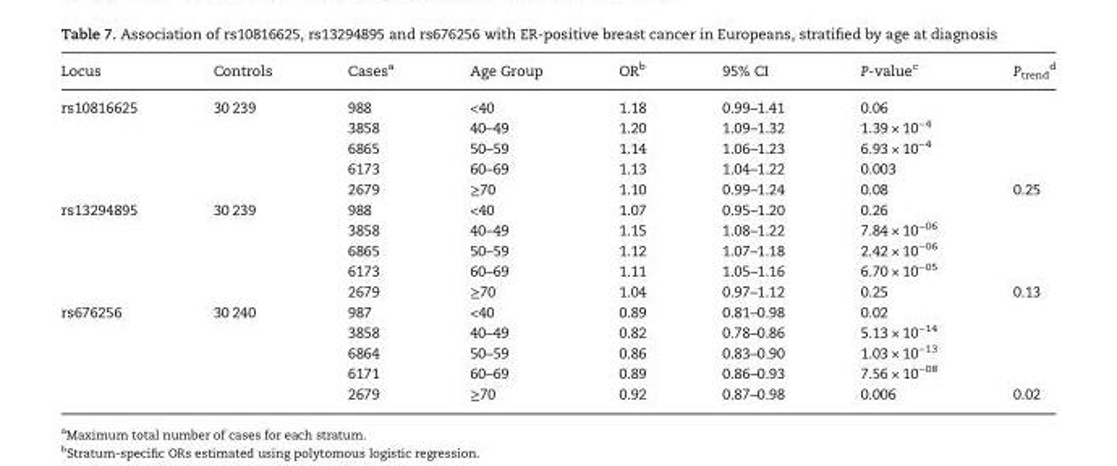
<table><thead><tr><td>Locus</td><td>Controls</td><td>Cases<sup>a</sup></td><td>Age Group</td><td>OR<sup>b</sup></td><td>95% CI</td><td>P-value<sup>c</sup></td><td>P<sub>trend</sub> <sup>d</sup></td></tr></thead><tbody><tr><td rowspan="5">rs10816625</td><td>30 239</td><td>988</td><td>&lt;40</td><td>1.18</td><td>0.99–1.41</td><td>0.06</td><td></td></tr><tr><td></td><td>3858</td><td>40–49</td><td>1.20</td><td>1.09–1.32</td><td>1.39 × 10<sup>−4</sup></td><td></td></tr><tr><td></td><td>6865</td><td>50–59</td><td>1.14</td><td>1.06–1.23</td><td>6.93 × 10<sup>−4</sup></td><td></td></tr><tr><td></td><td>6173</td><td>60–69</td><td>1.13</td><td>1.04–1.22</td><td>0.003</td><td></td></tr><tr><td></td><td>2679</td><td>≥70</td><td>1.10</td><td>0.99–1.24</td><td>0.08</td><td>0.25</td></tr><tr><td rowspan="5">rs13294895</td><td>30 239</td><td>988</td><td>&lt;40</td><td>1.07</td><td>0.95–1.20</td><td>0.26</td><td></td></tr><tr><td></td><td>3858</td><td>40–49</td><td>1.15</td><td>1.08–1.22</td><td>7.84 × 10<sup>−06</sup></td><td></td></tr><tr><td></td><td>6865</td><td>50–59</td><td>1.12</td><td>1.07–1.18</td><td>2.42 × 10<sup>−06</sup></td><td></td></tr><tr><td></td><td>6173</td><td>60–69</td><td>1.11</td><td>1.05–1.16</td><td>6.70 × 10<sup>−05</sup></td><td></td></tr><tr><td></td><td>2679</td><td>≥70</td><td>1.04</td><td>0.97–1.12</td><td>0.25</td><td>0.13</td></tr><tr><td rowspan="5">rs676256</td><td>30 240</td><td>987</td><td>&lt;40</td><td>0.89</td><td>0.81–0.98</td><td>0.02</td><td></td></tr><tr><td></td><td>3858</td><td>40–49</td><td>0.82</td><td>0.78–0.86</td><td>5.13 × 10<sup>−14</sup></td><td></td></tr><tr><td></td><td>6864</td><td>50–59</td><td>0.86</td><td>0.83–0.90</td><td>1.03 × 10<sup>−13</sup></td><td></td></tr><tr><td></td><td>6171</td><td>60–69</td><td>0.89</td><td>0.86–0.93</td><td>7.56 × 10<sup>−08</sup></td><td></td></tr><tr><td></td><td>2679</td><td>≥70</td><td>0.92</td><td>0.87–0.98</td><td>0.006</td><td>0.02</td></tr></tbody></table>